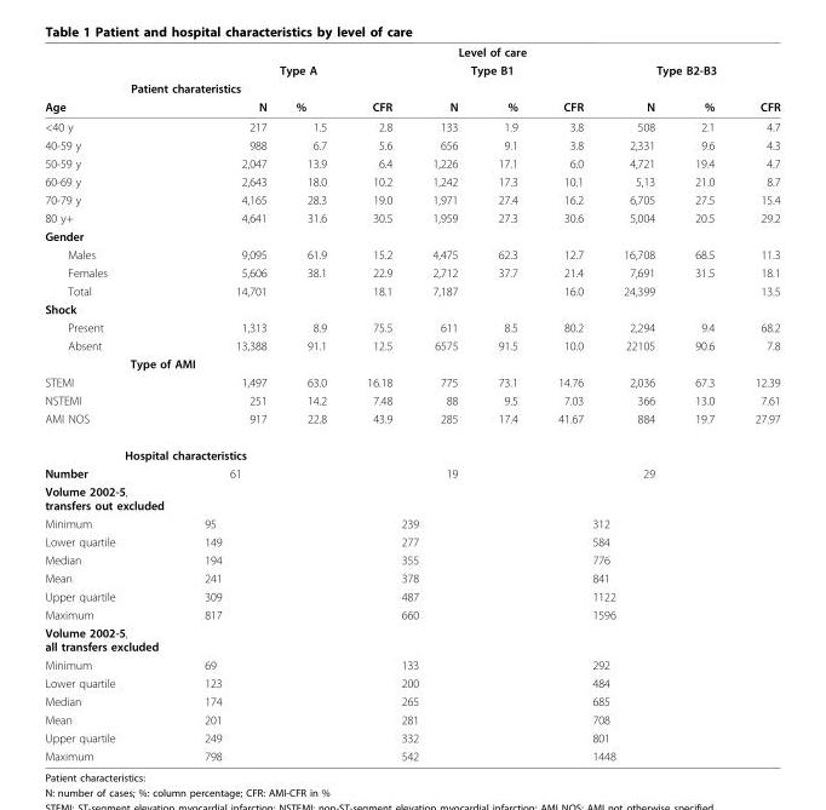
<table><thead><tr><td rowspan="2"></td><td colspan="9">Level of care</td></tr><tr><td colspan="3">Type A</td><td colspan="3">Type B1</td><td colspan="3">Type B2-B3</td></tr><tr><td colspan="3">Patient charateristics</td><td rowspan="2">CFR</td><td rowspan="2">N</td><td rowspan="2">%</td><td rowspan="2">CFR</td><td rowspan="2">N</td><td rowspan="2">%</td><td rowspan="2">CFR</td></tr><tr><td>Age</td><td>N</td><td>%</td></tr></thead><tbody><tr><td>&lt;40 y</td><td>217</td><td>1.5</td><td>2.8</td><td>133</td><td>1.9</td><td>3.8</td><td>508</td><td>2.1</td><td>4.7</td></tr><tr><td>40-59 y</td><td>988</td><td>6.7</td><td>5.6</td><td>656</td><td>9.1</td><td>3.8</td><td>2,331</td><td>9.6</td><td>4.3</td></tr><tr><td>50-59 y</td><td>2,047</td><td>13.9</td><td>6.4</td><td>1,226</td><td>17.1</td><td>6.0</td><td>4,721</td><td>19.4</td><td>4.7</td></tr><tr><td>60-69 y</td><td>2,643</td><td>18.0</td><td>10.2</td><td>1,242</td><td>17.3</td><td>10.1</td><td>5,13</td><td>21.0</td><td>8.7</td></tr><tr><td>70-79 y</td><td>4,165</td><td>28.3</td><td>19.0</td><td>1,971</td><td>27.4</td><td>16.2</td><td>6,705</td><td>27.5</td><td>15.4</td></tr><tr><td>80 y+</td><td>4,641</td><td>31.6</td><td>30.5</td><td>1,959</td><td>27.3</td><td>30.6</td><td>5,004</td><td>20.5</td><td>29.2</td></tr><tr><td colspan="10">Gender</td></tr><tr><td>Males</td><td>9,095</td><td>61.9</td><td>15.2</td><td>4,475</td><td>62.3</td><td>12.7</td><td>16,708</td><td>68.5</td><td>11.3</td></tr><tr><td>Females</td><td>5,606</td><td>38.1</td><td>22.9</td><td>2,712</td><td>37.7</td><td>21.4</td><td>7,691</td><td>31.5</td><td>18.1</td></tr><tr><td>Total</td><td>14,701</td><td></td><td>18.1</td><td>7,187</td><td></td><td>16.0</td><td>24,399</td><td></td><td>13.5</td></tr><tr><td colspan="10">Shock</td></tr><tr><td>Present</td><td>1,313</td><td>8.9</td><td>75.5</td><td>611</td><td>8.5</td><td>80.2</td><td>2,294</td><td>9.4</td><td>68.2</td></tr><tr><td>Absent</td><td>13,388</td><td>91.1</td><td>12.5</td><td>6575</td><td>91.5</td><td>10.0</td><td>22105</td><td>90.6</td><td>7.8</td></tr><tr><td colspan="10">Type of AMI</td></tr><tr><td>STEMI</td><td>1,497</td><td>63.0</td><td>16.18</td><td>775</td><td>73.1</td><td>14.76</td><td>2,036</td><td>67.3</td><td>12.39</td></tr><tr><td>NSTEMI</td><td>251</td><td>14.2</td><td>7.48</td><td>88</td><td>9.5</td><td>7.03</td><td>366</td><td>13.0</td><td>7.61</td></tr><tr><td>AMI NOS</td><td>917</td><td>22.8</td><td>43.9</td><td>285</td><td>17.4</td><td>41.67</td><td>884</td><td>19.7</td><td>27.97</td></tr><tr><td colspan="10">Hospital characteristics</td></tr><tr><td>Number</td><td>61</td><td></td><td></td><td>19</td><td></td><td></td><td>29</td><td></td><td></td></tr><tr><td colspan="10">Volume 2002-5, transfers out excluded</td></tr><tr><td>Minimum</td><td>95</td><td></td><td></td><td>239</td><td></td><td></td><td>312</td><td></td><td></td></tr><tr><td>Lower quartile</td><td>149</td><td></td><td></td><td>277</td><td></td><td></td><td>584</td><td></td><td></td></tr><tr><td>Median</td><td>194</td><td></td><td></td><td>355</td><td></td><td></td><td>776</td><td></td><td></td></tr><tr><td>Mean</td><td>241</td><td></td><td></td><td>378</td><td></td><td></td><td>841</td><td></td><td></td></tr><tr><td>Upper quartile</td><td>309</td><td></td><td></td><td>487</td><td></td><td></td><td>1122</td><td></td><td></td></tr><tr><td>Maximum</td><td>817</td><td></td><td></td><td>660</td><td></td><td></td><td>1596</td><td></td><td></td></tr><tr><td colspan="10">Volume 2002-5, all transfers excluded</td></tr><tr><td>Minimum</td><td>69</td><td></td><td></td><td>133</td><td></td><td></td><td>292</td><td></td><td></td></tr><tr><td>Lower quartile</td><td>123</td><td></td><td></td><td>200</td><td></td><td></td><td>484</td><td></td><td></td></tr><tr><td>Median</td><td>174</td><td></td><td></td><td>265</td><td></td><td></td><td>685</td><td></td><td></td></tr><tr><td>Mean</td><td>201</td><td></td><td></td><td>281</td><td></td><td></td><td>708</td><td></td><td></td></tr><tr><td>Upper quartile</td><td>249</td><td></td><td></td><td>332</td><td></td><td></td><td>801</td><td></td><td></td></tr><tr><td>Maximum</td><td>798</td><td></td><td></td><td>542</td><td></td><td></td><td>1448</td><td></td><td></td></tr></tbody></table>